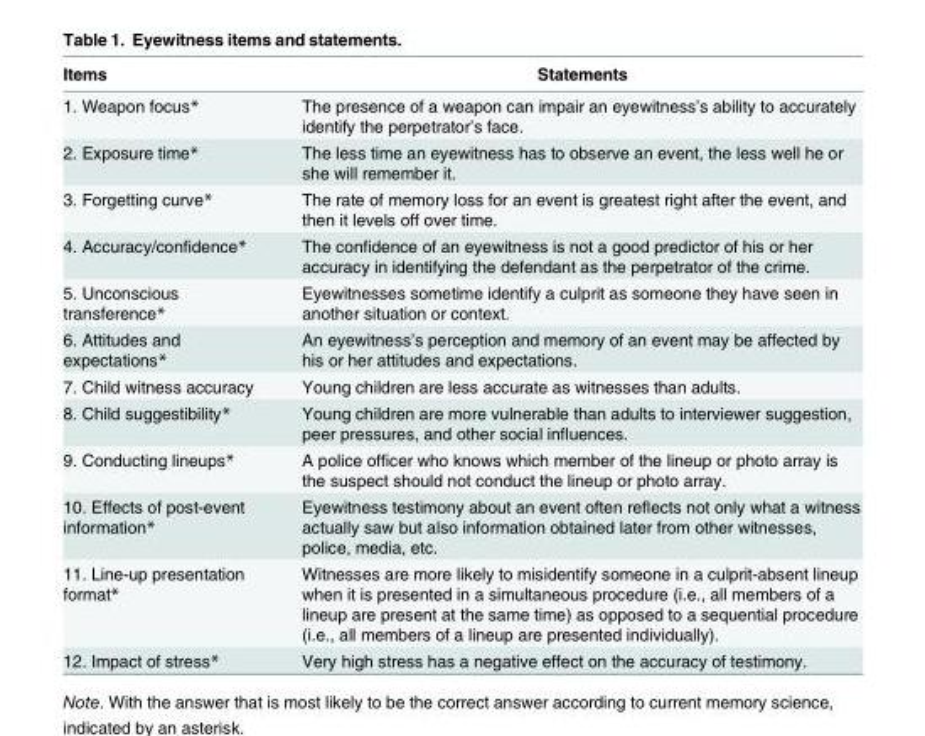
<table><thead><tr><td>Items</td><td>Statements</td></tr></thead><tbody><tr><td>1. Weapon focus*</td><td>The presence of a weapon can impair an eyewitness’s ability to accurately identify the perpetrator’s face.</td></tr><tr><td>2. Exposure time*</td><td>The less time an eyewitness has to observe an event, the less well he or she will remember it.</td></tr><tr><td>3. Forgetting curve*</td><td>The rate of memory loss for an event is greatest right after the event, and then it levels off over time.</td></tr><tr><td>4. Accuracy/confidence*</td><td>The confidence of an eyewitness is not a good predictor of his or her accuracy in identifying the defendant as the perpetrator of the crime.</td></tr><tr><td>5. Unconscious transference*</td><td>Eyewitnesses sometime identify a culprit as someone they have seen in another situation or context.</td></tr><tr><td>6. Attitudes and expectations*</td><td>An eyewitness’s perception and memory of an event may be affected by his or her attitudes and expectations.</td></tr><tr><td>7. Child witness accuracy</td><td>Young children are less accurate as witnesses than adults.</td></tr><tr><td>8. Child suggestibility*</td><td>Young children are more vulnerable than adults to interviewer suggestion, peer pressures, and other social influences.</td></tr><tr><td>9. Conducting lineups*</td><td>A police officer who knows which member of the lineup or photo array is the suspect should not conduct the lineup or photo array.</td></tr><tr><td>10. Effects of post-event information*</td><td>Eyewitness testimony about an event often reflects not only what a witness actually saw but also information obtained later from other witnesses, police, media, etc.</td></tr><tr><td>11. Line-up presentation format*</td><td>Witnesses are more likely to misidentify someone in a culprit-absent lineup when it is presented in a simultaneous procedure (i.e., all members of a lineup are present at the same time) as opposed to a sequential procedure (i.e., all members of a lineup are presented individually).</td></tr><tr><td>12. Impact of stress*</td><td>Very high stress has a negative effect on the accuracy of testimony.</td></tr></tbody></table>